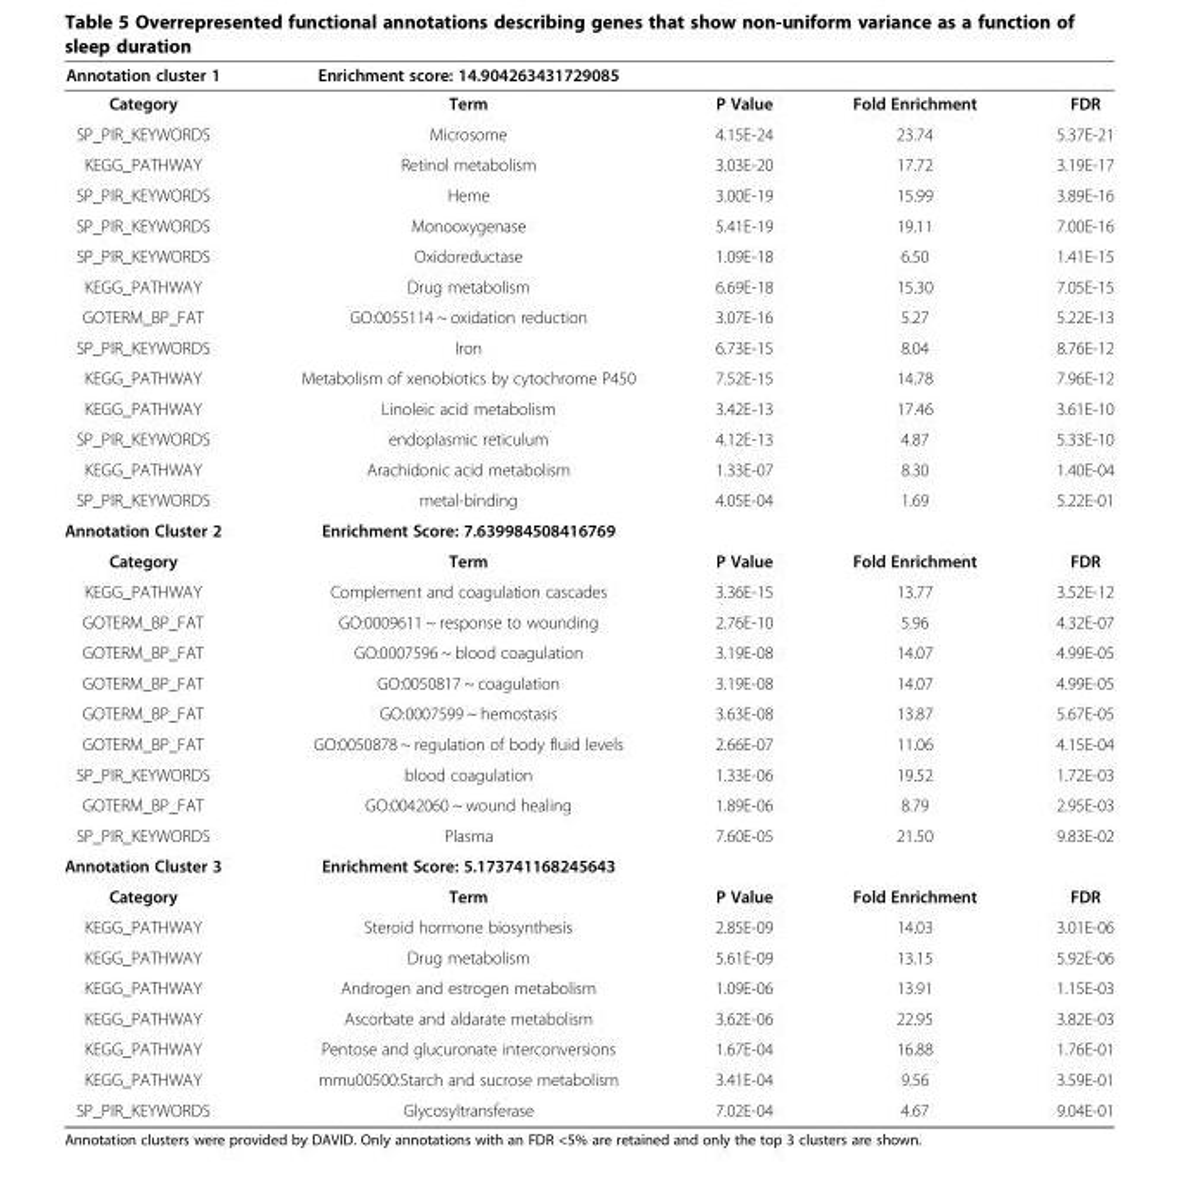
<table><thead><tr><td>Annotation cluster 1</td><td>Enrichment score: 14.904263431729085</td><td></td><td></td><td></td></tr></thead><tbody><tr><td>Category</td><td>Term</td><td>P Value</td><td>Fold Enrichment</td><td>FDR</td></tr><tr><td>SP_PIR_KEYWORDS</td><td>Microsome</td><td>4.15E-24</td><td>23.74</td><td>5.37E-21</td></tr><tr><td>KEGG_PATHWAY</td><td>Retinol metabolism</td><td>3.03E-20</td><td>17.72</td><td>3.19E-17</td></tr><tr><td>SP_PIR_KEYWORDS</td><td>Heme</td><td>3.00E-19</td><td>15.99</td><td>3.89E-16</td></tr><tr><td>SP_PIR_KEYWORDS</td><td>Monooxygenase</td><td>5.41E-19</td><td>19.11</td><td>7.00E-16</td></tr><tr><td>SP_PIR_KEYWORDS</td><td>Oxidoreductase</td><td>1.09E-18</td><td>6.50</td><td>1.41E-15</td></tr><tr><td>KEGG_PATHWAY</td><td>Drug metabolism</td><td>6.69E-18</td><td>15.30</td><td>7.05E-15</td></tr><tr><td>GOTERM_BP_FAT</td><td>GO:0055114 ~ oxidation reduction</td><td>3.07E-16</td><td>5.27</td><td>5.22E-13</td></tr><tr><td>SP_PIR_KEYWORDS</td><td>Iron</td><td>6.73E-15</td><td>8.04</td><td>8.76E-12</td></tr><tr><td>KEGG_PATHWAY</td><td>Metabolism of xenobiotics by cytochrome P450</td><td>7.52E-15</td><td>14.78</td><td>7.96E-12</td></tr><tr><td>KEGG_PATHWAY</td><td>Linoleic acid metabolism</td><td>3.42E-13</td><td>17.46</td><td>3.61E-10</td></tr><tr><td>SP_PIR_KEYWORDS</td><td>endoplasmic reticulum</td><td>4.12E-13</td><td>4.87</td><td>5.33E-10</td></tr><tr><td>KEGG_PATHWAY</td><td>Arachidonic acid metabolism</td><td>1.33E-07</td><td>8.30</td><td>1.40E-04</td></tr><tr><td>SP_PIR_KEYWORDS</td><td>metal-binding</td><td>4.05E-04</td><td>1.69</td><td>5.22E-01</td></tr><tr><td>Annotation Cluster 2</td><td>Enrichment Score: 7.639984508416769</td><td></td><td></td><td></td></tr><tr><td>Category</td><td>Term</td><td>P Value</td><td>Fold Enrichment</td><td>FDR</td></tr><tr><td>KEGG_PATHWAY</td><td>Complement and coagulation cascades</td><td>3.36E-15</td><td>13.77</td><td>3.52E-12</td></tr><tr><td>GOTERM_BP_FAT</td><td>GO:0009611 ~ response to wounding</td><td>2.76E-10</td><td>5.96</td><td>4.32E-07</td></tr><tr><td>GOTERM_BP_FAT</td><td>GO:0007596 ~ blood coagulation</td><td>3.19E-08</td><td>14.07</td><td>4.99E-05</td></tr><tr><td>GOTERM_BP_FAT</td><td>GO:0050817 ~ coagulation</td><td>3.19E-08</td><td>14.07</td><td>4.99E-05</td></tr><tr><td>GOTERM_BP_FAT</td><td>GO:0007599 ~ hemostasis</td><td>3.63E-08</td><td>13.87</td><td>5.67E-05</td></tr><tr><td>GOTERM_BP_FAT</td><td>GO:0050878 ~ regulation of body fluid levels</td><td>2.66E-07</td><td>11.06</td><td>4.15E-04</td></tr><tr><td>SP_PIR_KEYWORDS</td><td>blood coagulation</td><td>1.33E-06</td><td>19.52</td><td>1.72E-03</td></tr><tr><td>GOTERM_BP_FAT</td><td>GO:0042060 ~ wound healing</td><td>1.89E-06</td><td>8.79</td><td>2.95E-03</td></tr><tr><td>SP_PIR_KEYWORDS</td><td>Plasma</td><td>7.60E-05</td><td>21.50</td><td>9.83E-02</td></tr><tr><td>Annotation Cluster 3</td><td>Enrichment Score: 5.173741168245643</td><td></td><td></td><td></td></tr><tr><td>Category</td><td>Term</td><td>P Value</td><td>Fold Enrichment</td><td>FDR</td></tr><tr><td>KEGG_PATHWAY</td><td>Steroid hormone biosynthesis</td><td>2.85E-09</td><td>14.03</td><td>3.01E-06</td></tr><tr><td>KEGG_PATHWAY</td><td>Drug metabolism</td><td>5.61E-09</td><td>13.15</td><td>5.92E-06</td></tr><tr><td>KEGG_PATHWAY</td><td>Androgen and estrogen metabolism</td><td>1.09E-06</td><td>13.91</td><td>1.15E-03</td></tr><tr><td>KEGG_PATHWAY</td><td>Ascorbate and aldarate metabolism</td><td>3.62E-06</td><td>22.95</td><td>3.82E-03</td></tr><tr><td>KEGG_PATHWAY</td><td>Pentose and glucuronate interconversions</td><td>1.67E-04</td><td>16.88</td><td>1.76E-01</td></tr><tr><td>KEGG_PATHWAY</td><td>mmu00500:Starch and sucrose metabolism</td><td>3.41E-04</td><td>9.56</td><td>3.59E-01</td></tr><tr><td>SP_PIR_KEYWORDS</td><td>Glycosyltransferase</td><td>7.02E-04</td><td>4.67</td><td>9.04E-01</td></tr></tbody></table>